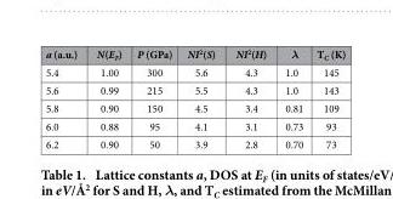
<table><thead><tr><td>a (a.u.)</td><td>N(E<sub>F</sub>)</td><td>P (GPa)</td><td>NI<sup>2</sup>(S)</td><td>NI<sup>2</sup>(H)</td><td>λ</td><td>T<sub>C</sub> (K)</td></tr></thead><tbody><tr><td>5.4</td><td>1.00</td><td>300</td><td>5.6</td><td>4.3</td><td>1.0</td><td>145</td></tr><tr><td>5.6</td><td>0.99</td><td>215</td><td>5.5</td><td>4.3</td><td>1.0</td><td>143</td></tr><tr><td>5.8</td><td>0.90</td><td>150</td><td>4.5</td><td>3.4</td><td>0.81</td><td>109</td></tr><tr><td>6.0</td><td>0.88</td><td>95</td><td>4.1</td><td>3.1</td><td>0.73</td><td>93</td></tr><tr><td>6.2</td><td>0.90</td><td>50</td><td>3.9</td><td>2.8</td><td>0.70</td><td>73</td></tr></tbody></table>